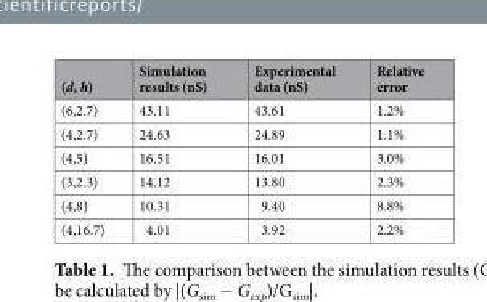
<table><thead><tr><td>(d, h)</td><td>Simulation results (nS)</td><td>Experimental data (nS)</td><td>Relative error</td></tr></thead><tbody><tr><td>(6,2.7)</td><td>43.11</td><td>43.61</td><td>1.2%</td></tr><tr><td>(4,2.7)</td><td>24.63</td><td>24.89</td><td>1.1%</td></tr><tr><td>(4,5)</td><td>16.51</td><td>16.01</td><td>3.0%</td></tr><tr><td>(3,2.3)</td><td>14.12</td><td>13.80</td><td>2.3%</td></tr><tr><td>(4,8)</td><td>10.31</td><td>9.40</td><td>8.8%</td></tr><tr><td>(4,16.7)</td><td>4.01</td><td>3.92</td><td>2.2%</td></tr></tbody></table>